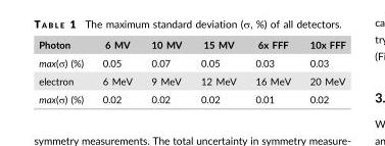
<table><thead><tr><td>Photon</td><td>6 MV</td><td>10 MV</td><td>15 MV</td><td>6x FFF</td><td>10x FFF</td></tr></thead><tbody><tr><td>max(σ) (%)</td><td>0.05</td><td>0.07</td><td>0.05</td><td>0.03</td><td>0.03</td></tr><tr><td>electron</td><td>6 MeV</td><td>9 MeV</td><td>12 MeV</td><td>16 MeV</td><td>20 MeV</td></tr><tr><td>max(σ) (%)</td><td>0.02</td><td>0.02</td><td>0.02</td><td>0.01</td><td>0.02</td></tr></tbody></table>